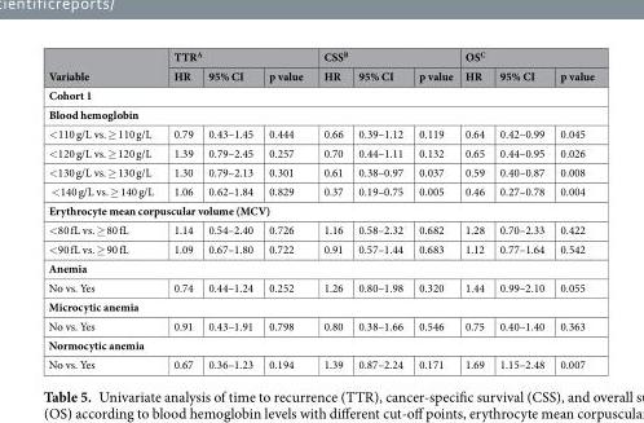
<table><thead><tr><td rowspan="2">Variable</td><td colspan="3">TTR<sup>A</sup></td><td colspan="3">CSS<sup>B</sup></td><td colspan="3">OS<sup>C</sup></td></tr><tr><td>HR</td><td>95% CI</td><td>p value</td><td>HR</td><td>95% CI</td><td>p value</td><td>HR</td><td>95% CI</td><td>p value</td></tr></thead><tbody><tr><td colspan="10">Cohort 1</td></tr><tr><td colspan="10">Blood hemoglobin</td></tr><tr><td>&lt;110 g/L vs. ≥ 110 g/L</td><td>0.79</td><td>0.43–1.45</td><td>0.444</td><td>0.66</td><td>0.39–1.12</td><td>0.119</td><td>0.64</td><td>0.42–0.99</td><td>0.045</td></tr><tr><td>&lt;120 g/L vs. ≥ 120 g/L</td><td>1.39</td><td>0.79–2.45</td><td>0.257</td><td>0.70</td><td>0.44–1.11</td><td>0.132</td><td>0.65</td><td>0.44–0.95</td><td>0.026</td></tr><tr><td>&lt;130 g/L vs. ≥ 130 g/L</td><td>1.30</td><td>0.79–2.13</td><td>0.301</td><td>0.61</td><td>0.38–0.97</td><td>0.037</td><td>0.59</td><td>0.40–0.87</td><td>0.008</td></tr><tr><td>&lt;140 g/L vs. ≥ 140 g/L</td><td>1.06</td><td>0.62–1.84</td><td>0.829</td><td>0.37</td><td>0.19–0.75</td><td>0.005</td><td>0.46</td><td>0.27–0.78</td><td>0.004</td></tr><tr><td colspan="10">Erythrocyte mean corpuscular volume (MCV)</td></tr><tr><td>&lt;80 fL vs. ≥ 80 fL</td><td>1.14</td><td>0.54–2.40</td><td>0.726</td><td>1.16</td><td>0.58–2.32</td><td>0.682</td><td>1.28</td><td>0.70–2.33</td><td>0.422</td></tr><tr><td>&lt;90 fL vs. ≥ 90 fL</td><td>1.09</td><td>0.67–1.80</td><td>0.722</td><td>0.91</td><td>0.57–1.44</td><td>0.683</td><td>1.12</td><td>0.77–1.64</td><td>0.542</td></tr><tr><td colspan="10">Anemia</td></tr><tr><td>No vs. Yes</td><td>0.74</td><td>0.44–1.24</td><td>0.252</td><td>1.26</td><td>0.80–1.98</td><td>0.320</td><td>1.44</td><td>0.99–2.10</td><td>0.055</td></tr><tr><td colspan="10">Microcytic anemia</td></tr><tr><td>No vs. Yes</td><td>0.91</td><td>0.43–1.91</td><td>0.798</td><td>0.80</td><td>0.38–1.66</td><td>0.546</td><td>0.75</td><td>0.40–1.40</td><td>0.363</td></tr><tr><td colspan="10">Normocytic anemia</td></tr><tr><td>No vs. Yes</td><td>0.67</td><td>0.36–1.23</td><td>0.194</td><td>1.39</td><td>0.87–2.24</td><td>0.171</td><td>1.69</td><td>1.15–2.48</td><td>0.007</td></tr></tbody></table>